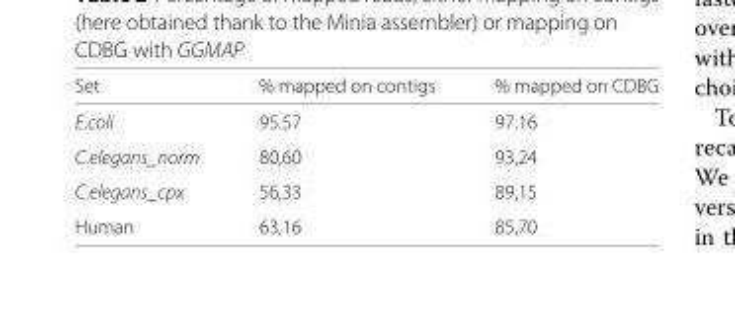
<table><thead><tr><td>Set</td><td>% mapped on contigs</td><td>% mapped on CDBG</td></tr></thead><tbody><tr><td>E.coli</td><td>95.57</td><td>97.16</td></tr><tr><td>C.elegans_norm</td><td>80,60</td><td>93,24</td></tr><tr><td>C.elegans_cpx</td><td>56,33</td><td>89,15</td></tr><tr><td>Human</td><td>63,16</td><td>85,70</td></tr></tbody></table>